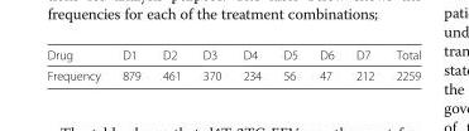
<table><thead><tr><td>Drug</td><td>D1</td><td>D2</td><td>D3</td><td>D4</td><td>D5</td><td>D6</td><td>D7</td><td>Total</td></tr></thead><tbody><tr><td>Frequency</td><td>879</td><td>461</td><td>370</td><td>234</td><td>56</td><td>47</td><td>212</td><td>2259</td></tr></tbody></table>